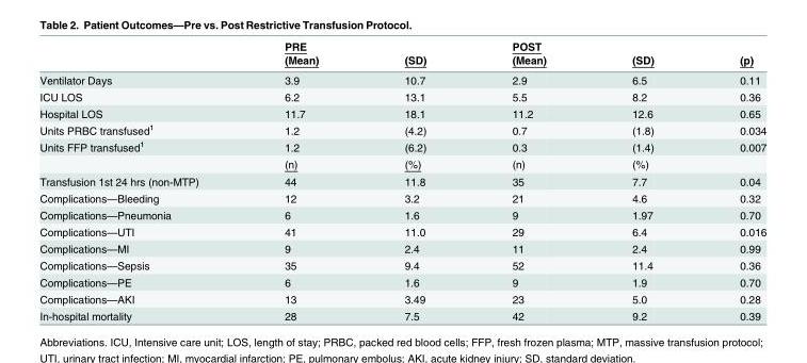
<table><thead><tr><td rowspan="2"></td><td rowspan="2">PRE (Mean)</td><td rowspan="2">(SD)</td><td rowspan="2">POST (Mean)</td><td rowspan="2">(SD)</td><td rowspan="2">(p)</td></tr><tr></tr></thead><tbody><tr><td>Ventilator Days</td><td>3.9</td><td>10.7</td><td>2.9</td><td>6.5</td><td>0.11</td></tr><tr><td>ICU LOS</td><td>6.2</td><td>13.1</td><td>5.5</td><td>8.2</td><td>0.36</td></tr><tr><td>Hospital LOS</td><td>11.7</td><td>18.1</td><td>11.2</td><td>12.6</td><td>0.65</td></tr><tr><td>Units PRBC transfused<sup>1</sup></td><td>1.2</td><td>(4.2)</td><td>0.7</td><td>(1.8)</td><td>0.034</td></tr><tr><td rowspan="2">Units FFP transfused<sup>1</sup></td><td>1.2</td><td>(6.2)</td><td>0.3</td><td>(1.4)</td><td>0.007</td></tr><tr><td>(n)</td><td>(%)</td><td>(n)</td><td>(%)</td><td></td></tr><tr><td>Transfusion 1st 24 hrs (non-MTP)</td><td>44</td><td>11.8</td><td>35</td><td>7.7</td><td>0.04</td></tr><tr><td>Complications—Bleeding</td><td>12</td><td>3.2</td><td>21</td><td>4.6</td><td>0.32</td></tr><tr><td>Complications—Pneumonia</td><td>6</td><td>1.6</td><td>9</td><td>1.97</td><td>0.70</td></tr><tr><td>Complications—UTI</td><td>41</td><td>11.0</td><td>29</td><td>6.4</td><td>0.016</td></tr><tr><td>Complications—MI</td><td>9</td><td>2.4</td><td>11</td><td>2.4</td><td>0.99</td></tr><tr><td>Complications—Sepsis</td><td>35</td><td>9.4</td><td>52</td><td>11.4</td><td>0.36</td></tr><tr><td>Complications—PE</td><td>6</td><td>1.6</td><td>9</td><td>1.9</td><td>0.70</td></tr><tr><td>Complications—AKI</td><td>13</td><td>3.49</td><td>23</td><td>5.0</td><td>0.28</td></tr><tr><td>In-hospital mortality</td><td>28</td><td>7.5</td><td>42</td><td>9.2</td><td>0.39</td></tr></tbody></table>